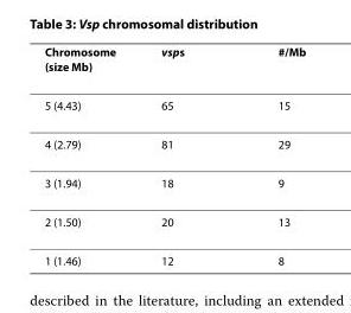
<table><thead><tr><td>Chromosome (size Mb)</td><td>vsps</td><td>#/Mb</td></tr></thead><tbody><tr><td>5 (4.43)</td><td>65</td><td>15</td></tr><tr><td>4 (2.79)</td><td>81</td><td>29</td></tr><tr><td>3 (1.94)</td><td>18</td><td>9</td></tr><tr><td>2 (1.50)</td><td>20</td><td>13</td></tr><tr><td>1 (1.46)</td><td>12</td><td>8</td></tr></tbody></table>